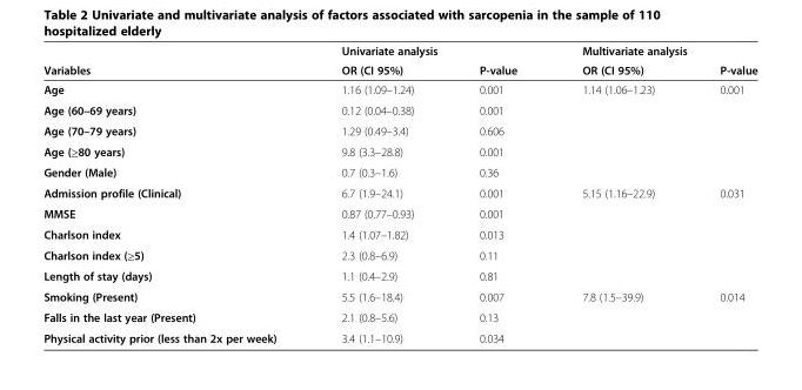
<table><thead><tr><td rowspan="2">Variables</td><td colspan="2">Univariate analysis</td><td colspan="2">Multivariate analysis</td></tr><tr><td>OR (CI 95%)</td><td>P-value</td><td>OR (CI 95%)</td><td>P-value</td></tr></thead><tbody><tr><td>Age</td><td>1.16 (1.09–1.24)</td><td>0.001</td><td>1.14 (1.06–1.23)</td><td>0.001</td></tr><tr><td>Age (60–69 years)</td><td>0.12 (0.04–0.38)</td><td>0.001</td><td></td><td></td></tr><tr><td>Age (70–79 years)</td><td>1.29 (0.49–3.4)</td><td>0.606</td><td></td><td></td></tr><tr><td>Age (≥80 years)</td><td>9.8 (3.3–28.8)</td><td>0.001</td><td></td><td></td></tr><tr><td>Gender (Male)</td><td>0.7 (0.3–1.6)</td><td>0.36</td><td></td><td></td></tr><tr><td>Admission profile (Clinical)</td><td>6.7 (1.9–24.1)</td><td>0.001</td><td>5.15 (1.16–22.9)</td><td>0.031</td></tr><tr><td>MMSE</td><td>0.87 (0.77–0.93)</td><td>0.001</td><td></td><td></td></tr><tr><td>Charlson index</td><td>1.4 (1.07–1.82)</td><td>0.013</td><td></td><td></td></tr><tr><td>Charlson index (≥5)</td><td>2.3 (0.8–6.9)</td><td>0.11</td><td></td><td></td></tr><tr><td>Length of stay (days)</td><td>1.1 (0.4–2.9)</td><td>0.81</td><td></td><td></td></tr><tr><td>Smoking (Present)</td><td>5.5 (1.6–18.4)</td><td>0.007</td><td>7.8 (1.5–39.9)</td><td>0.014</td></tr><tr><td>Falls in the last year (Present)</td><td>2.1 (0.8–5.6)</td><td>0.13</td><td></td><td></td></tr><tr><td>Physical activity prior (less than 2x per week)</td><td>3.4 (1.1–10.9)</td><td>0.034</td><td></td><td></td></tr></tbody></table>